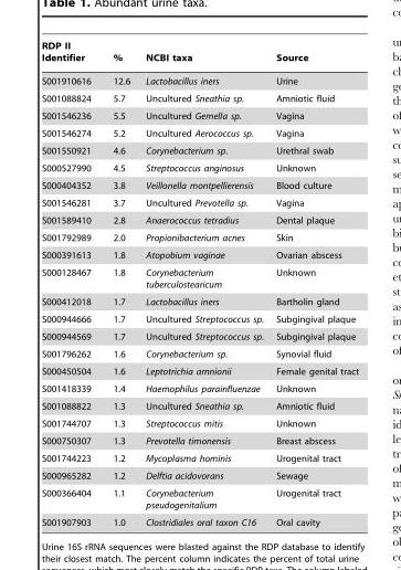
<table><thead><tr><td>RDP II Identifier</td><td>%</td><td>NCBI taxa</td><td>Source</td></tr></thead><tbody><tr><td>S001910616</td><td>12.6</td><td>Lactobacillus iners</td><td>Urine</td></tr><tr><td>S001088824</td><td>5.7</td><td>Uncultured Sneathia sp.</td><td>Amniotic fluid</td></tr><tr><td>S001546236</td><td>5.5</td><td>Uncultured Gemella sp.</td><td>Vagina</td></tr><tr><td>S001546274</td><td>5.2</td><td>Uncultured Aerococcus sp.</td><td>Vagina</td></tr><tr><td>S001550921</td><td>4.6</td><td>Corynebacterium sp.</td><td>Urethral swab</td></tr><tr><td>S000527990</td><td>4.5</td><td>Streptococcus anginosus</td><td>Unknown</td></tr><tr><td>S000404352</td><td>3.8</td><td>Veillonella montpellierensis</td><td>Blood culture</td></tr><tr><td>S001546281</td><td>3.7</td><td>Uncultured Prevotella sp.</td><td>Vagina</td></tr><tr><td>S001589410</td><td>2.8</td><td>Anaerococcus tetradius</td><td>Dental plaque</td></tr><tr><td>S001792989</td><td>2.0</td><td>Propionibacterium acnes</td><td>Skin</td></tr><tr><td>S000391613</td><td>1.8</td><td>Atopobium vaginae</td><td>Ovarian abscess</td></tr><tr><td>S000128467</td><td>1.8</td><td>Corynebacterium tuberculostearicum</td><td>Unknown</td></tr><tr><td>S000412018</td><td>1.7</td><td>Lactobacillus iners</td><td>Bartholin gland</td></tr><tr><td>S000944666</td><td>1.7</td><td>Uncultured Streptococcus sp.</td><td>Subgingival plaque</td></tr><tr><td>S000944569</td><td>1.7</td><td>Uncultured Streptococcus sp.</td><td>Subgingival plaque</td></tr><tr><td>S001796262</td><td>1.6</td><td>Corynebacterium sp.</td><td>Synovial fluid</td></tr><tr><td>S000450504</td><td>1.6</td><td>Leptotrichia amnionii</td><td>Female genital tract</td></tr><tr><td>S001418339</td><td>1.4</td><td>Haemophilus parainfluenzae</td><td>Unknown</td></tr><tr><td>S001088822</td><td>1.3</td><td>Uncultured Sneathia sp.</td><td>Amniotic fluid</td></tr><tr><td>S001744707</td><td>1.3</td><td>Streptococcus mitis</td><td>Unknown</td></tr><tr><td>S000750307</td><td>1.3</td><td>Prevotella timonensis</td><td>Breast abscess</td></tr><tr><td>S001744223</td><td>1.2</td><td>Mycoplasma hominis</td><td>Urogenital tract</td></tr><tr><td>S000965282</td><td>1.2</td><td>Delftia acidovorans</td><td>Sewage</td></tr><tr><td>S000366404</td><td>1.1</td><td>Corynebacterium pseudogenitalium</td><td>Urogenital tract</td></tr><tr><td>S001907903</td><td>1.0</td><td>Clostridiales oral taxon C16</td><td>Oral cavity</td></tr></tbody></table>